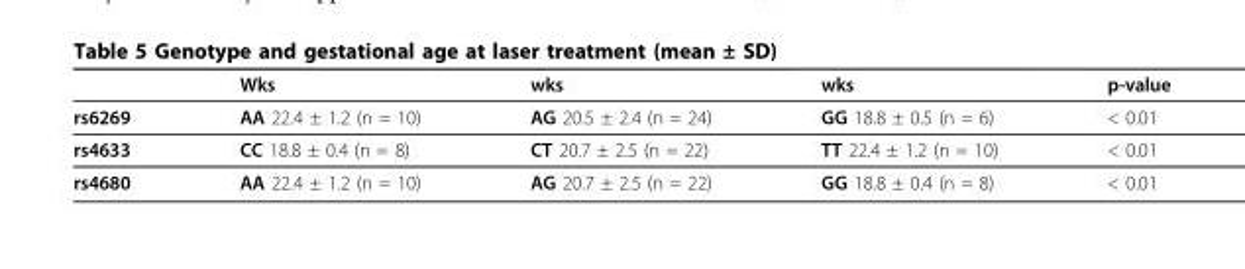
<table><thead><tr><td></td><td>Wks</td><td>wks</td><td>wks</td><td>p-value</td></tr></thead><tbody><tr><td>rs6269</td><td>AA 22.4 ± 1.2 (n = 10)</td><td>AG 20.5 ± 2.4 (n = 24)</td><td>GG 18.8 ± 0.5 (n = 6)</td><td>&lt; 0.01</td></tr><tr><td>rs4633</td><td>CC 18.8 ± 0.4 (n = 8)</td><td>CT 20.7 ± 2.5 (n = 22)</td><td>TT 22.4 ± 1.2 (n = 10)</td><td>&lt; 0.01</td></tr><tr><td>rs4680</td><td>AA 22.4 ± 1.2 (n = 10)</td><td>AG 20.7 ± 2.5 (n = 22)</td><td>GG 18.8 ± 0.4 (n = 8)</td><td>&lt; 0.01</td></tr></tbody></table>